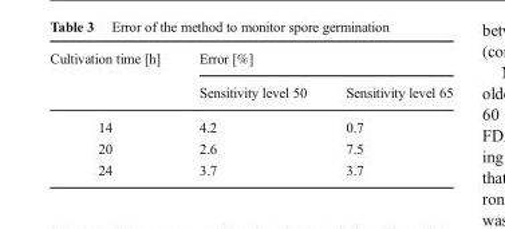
<table><thead><tr><td rowspan="2">Cultivation time [h]</td><td colspan="2">Error [%]</td></tr><tr><td>Sensitivity level 50</td><td>Sensitivity level 65</td></tr></thead><tbody><tr><td>14</td><td>4.2</td><td>0.7</td></tr><tr><td>20</td><td>2.6</td><td>7.5</td></tr><tr><td>24</td><td>3.7</td><td>3.7</td></tr></tbody></table>